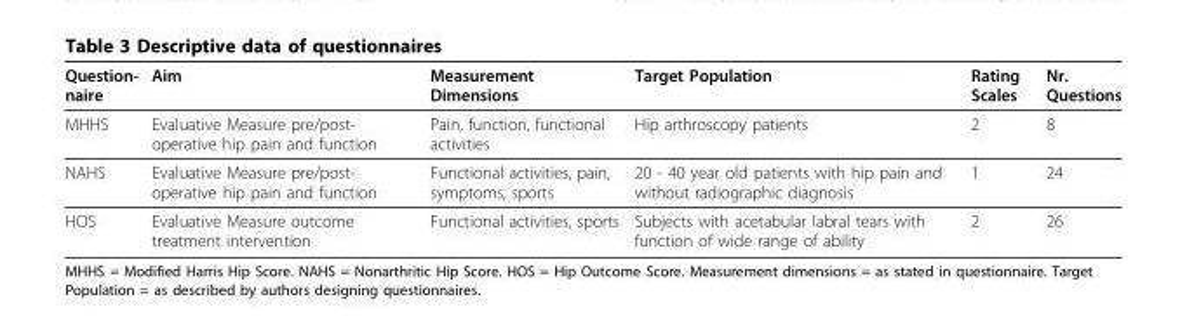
<table><thead><tr><td>Question- naire</td><td>Aim</td><td>Measurement Dimensions</td><td>Target Population</td><td>Rating Scales</td><td>Nr. Questions</td></tr></thead><tbody><tr><td>MHHS</td><td>Evaluative Measure pre/post- operative hip pain and function</td><td>Pain, function, functional activities</td><td>Hip arthroscopy patients</td><td>2</td><td>8</td></tr><tr><td>NAHS</td><td>Evaluative Measure pre/post- operative hip pain and function</td><td>Functional activities, pain, symptoms, sports</td><td>20 - 40 year old patients with hip pain and without radiographic diagnosis</td><td>1</td><td>24</td></tr><tr><td>HOS</td><td>Evaluative Measure outcome treatment intervention</td><td>Functional activities, sports</td><td>Subjects with acetabular labral tears with function of wide range of ability</td><td>2</td><td>26</td></tr></tbody></table>